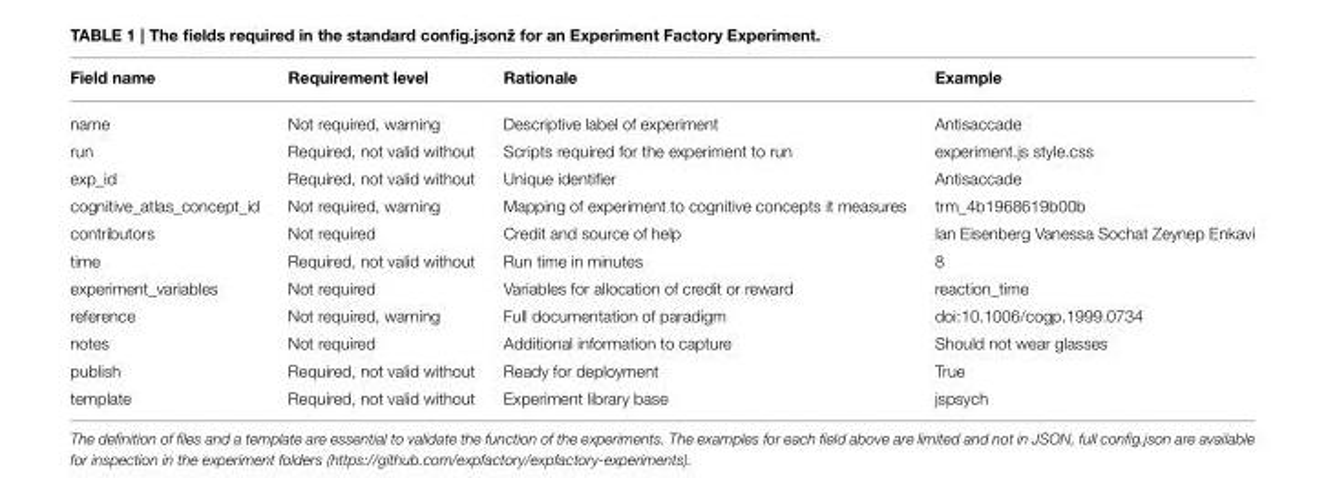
<table><thead><tr><td>Field name</td><td>Requirement level</td><td>Rationale</td><td>Example</td></tr></thead><tbody><tr><td>name</td><td>Not required, warning</td><td>Descriptive label of experiment</td><td>Antisaccade</td></tr><tr><td>run</td><td>Required, not valid without</td><td>Scripts required for the experiment to run</td><td>experiment.js style.css</td></tr><tr><td>exp_id</td><td>Required, not valid without</td><td>Unique identifier</td><td>Antisaccade</td></tr><tr><td>cognitive_atlas_concept_id</td><td>Not required, warning</td><td>Mapping of experiment to cognitive concepts it measures</td><td>trm_4b1968619b00b</td></tr><tr><td>contributors</td><td>Not required</td><td>Credit and source of help</td><td>Ian Eisenberg Vanessa Sochat Zeynep Enkavi</td></tr><tr><td>time</td><td>Required, not valid without</td><td>Run time in minutes</td><td>8</td></tr><tr><td>experiment_variables</td><td>Not required</td><td>Variables for allocation of credit or reward</td><td>reaction_time</td></tr><tr><td>reference</td><td>Not required, warning</td><td>Full documentation of paradigm</td><td>doi:10.1006/cogp.1999.0734</td></tr><tr><td>notes</td><td>Not required</td><td>Additional information to capture</td><td>Should not wear glasses</td></tr><tr><td>publish</td><td>Required, not valid without</td><td>Ready for deployment</td><td>True</td></tr><tr><td>template</td><td>Required, not valid without</td><td>Experiment library base</td><td>jspsych</td></tr></tbody></table>